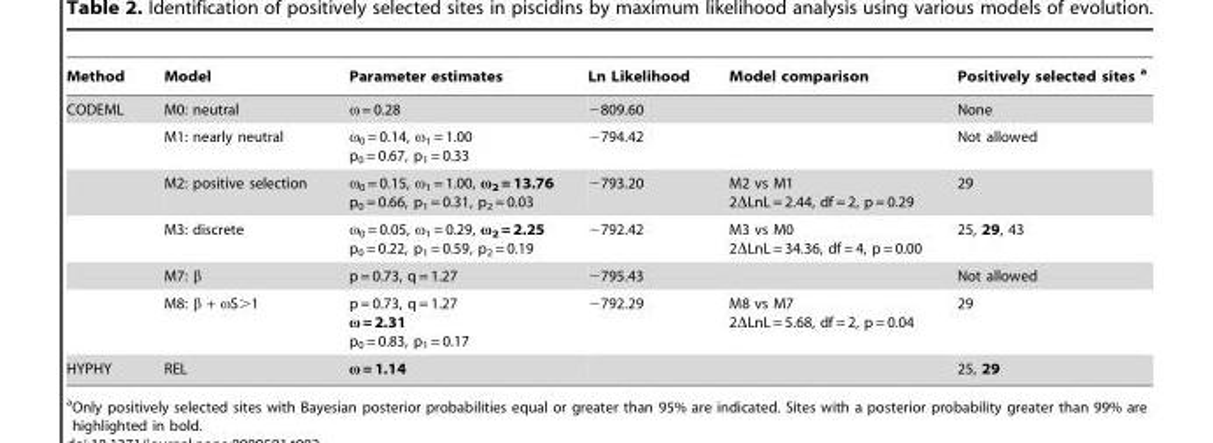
<table><thead><tr><td>Method</td><td>Model</td><td>Parameter estimates</td><td>Ln Likelihood</td><td>Model comparison</td><td>Positively selected sites a</td></tr></thead><tbody><tr><td rowspan="6">CODEML</td><td>M0: neutral</td><td>ω = 0.28</td><td>−809.60</td><td></td><td>None</td></tr><tr><td>M1: nearly neutral</td><td>ω<sub>0</sub> = 0.14, ω<sub>1</sub> = 1.00 p<sub>0</sub> = 0.67, p<sub>1</sub> = 0.33</td><td>−794.42</td><td></td><td>Not allowed</td></tr><tr><td>M2: positive selection</td><td>ω<sub>0</sub> = 0.15, ω<sub>1</sub> = 1.00, ω<sub>2</sub> = 13.76 p<sub>0</sub> = 0.66, p<sub>1</sub> = 0.31, p<sub>2</sub> = 0.03</td><td>−793.20</td><td>M2 vs M1 2ΔLnL = 2.44, df = 2, p = 0.29</td><td>29</td></tr><tr><td>M3: discrete</td><td>ω<sub>0</sub> = 0.05, ω<sub>1</sub> = 0.29, ω<sub>2</sub> = 2.25 p<sub>0</sub> = 0.22, p<sub>1</sub> = 0.59, p<sub>2</sub> = 0.19</td><td>−792.42</td><td>M3 vs M0 2ΔLnL = 34.36, df = 4, p = 0.00</td><td>25, 29, 43</td></tr><tr><td>M7: β</td><td>p = 0.73, q = 1.27</td><td>−795.43</td><td></td><td>Not allowed</td></tr><tr><td>M8: β + ωS&gt;1</td><td>p = 0.73, q = 1.27 ω = 2.31 p<sub>0</sub> = 0.83, p<sub>1</sub> = 0.17</td><td>−792.29</td><td>M8 vs M7 2ΔLnL = 5.68, df = 2, p = 0.04</td><td>29</td></tr><tr><td>HYPHY</td><td>REL</td><td>ω = 1.14</td><td></td><td></td><td>25, 29</td></tr></tbody></table>